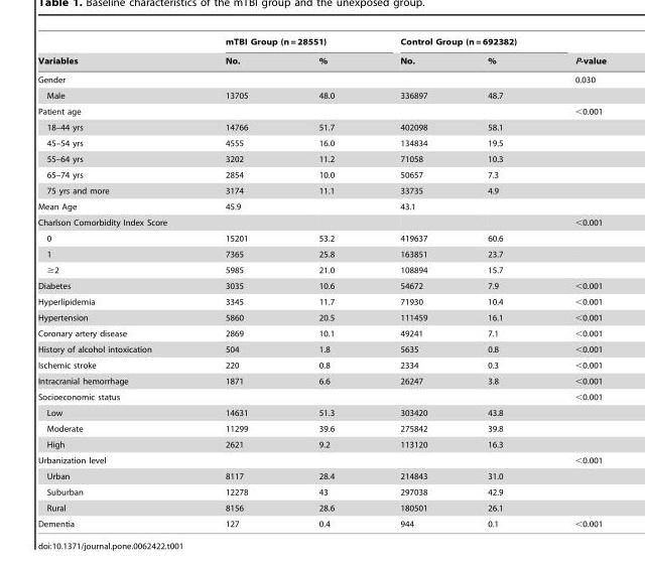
<table><thead><tr><td rowspan="2">Variables</td><td colspan="2">mTBI Group (n = 28551)</td><td colspan="2">Control Group (n = 692382)</td><td rowspan="2">P-value</td></tr><tr><td>No.</td><td>%</td><td>No.</td><td>%</td></tr></thead><tbody><tr><td>Gender</td><td></td><td></td><td></td><td></td><td>0.030</td></tr><tr><td>Male</td><td>13705</td><td>48.0</td><td>336897</td><td>48.7</td><td></td></tr><tr><td>Patient age</td><td></td><td></td><td></td><td></td><td>&lt;0.001</td></tr><tr><td>18–44 yrs</td><td>14766</td><td>51.7</td><td>402098</td><td>58.1</td><td></td></tr><tr><td>45–54 yrs</td><td>4555</td><td>16.0</td><td>134834</td><td>19.5</td><td></td></tr><tr><td>55–64 yrs</td><td>3202</td><td>11.2</td><td>71058</td><td>10.3</td><td></td></tr><tr><td>65–74 yrs</td><td>2854</td><td>10.0</td><td>50657</td><td>7.3</td><td></td></tr><tr><td>75 yrs and more</td><td>3174</td><td>11.1</td><td>33735</td><td>4.9</td><td></td></tr><tr><td>Mean Age</td><td>45.9</td><td></td><td>43.1</td><td></td><td></td></tr><tr><td>Charlson Comorbidity Index Score</td><td></td><td></td><td></td><td></td><td>&lt;0.001</td></tr><tr><td>0</td><td>15201</td><td>53.2</td><td>419637</td><td>60.6</td><td></td></tr><tr><td>1</td><td>7365</td><td>25.8</td><td>163851</td><td>23.7</td><td></td></tr><tr><td>≥2</td><td>5985</td><td>21.0</td><td>108894</td><td>15.7</td><td></td></tr><tr><td>Diabetes</td><td>3035</td><td>10.6</td><td>54672</td><td>7.9</td><td>&lt;0.001</td></tr><tr><td>Hyperlipidemia</td><td>3345</td><td>11.7</td><td>71930</td><td>10.4</td><td>&lt;0.001</td></tr><tr><td>Hypertension</td><td>5860</td><td>20.5</td><td>111459</td><td>16.1</td><td>&lt;0.001</td></tr><tr><td>Coronary artery disease</td><td>2869</td><td>10.1</td><td>49241</td><td>7.1</td><td>&lt;0.001</td></tr><tr><td>History of alcohol intoxication</td><td>504</td><td>1.8</td><td>5635</td><td>0.8</td><td>&lt;0.001</td></tr><tr><td>Ischemic stroke</td><td>220</td><td>0.8</td><td>2334</td><td>0.3</td><td>&lt;0.001</td></tr><tr><td>Intracranial hemorrhage</td><td>1871</td><td>6.6</td><td>26247</td><td>3.8</td><td>&lt;0.001</td></tr><tr><td>Socioeconomic status</td><td></td><td></td><td></td><td></td><td>&lt;0.001</td></tr><tr><td>Low</td><td>14631</td><td>51.3</td><td>303420</td><td>43.8</td><td></td></tr><tr><td>Moderate</td><td>11299</td><td>39.6</td><td>275842</td><td>39.8</td><td></td></tr><tr><td>High</td><td>2621</td><td>9.2</td><td>113120</td><td>16.3</td><td></td></tr><tr><td>Urbanization level</td><td></td><td></td><td></td><td></td><td>&lt;0.001</td></tr><tr><td>Urban</td><td>8117</td><td>28.4</td><td>214843</td><td>31.0</td><td></td></tr><tr><td>Suburban</td><td>12278</td><td>43</td><td>297038</td><td>42.9</td><td></td></tr><tr><td>Rural</td><td>8156</td><td>28.6</td><td>180501</td><td>26.1</td><td></td></tr><tr><td>Dementia</td><td>127</td><td>0.4</td><td>944</td><td>0.1</td><td>&lt;0.001</td></tr></tbody></table>